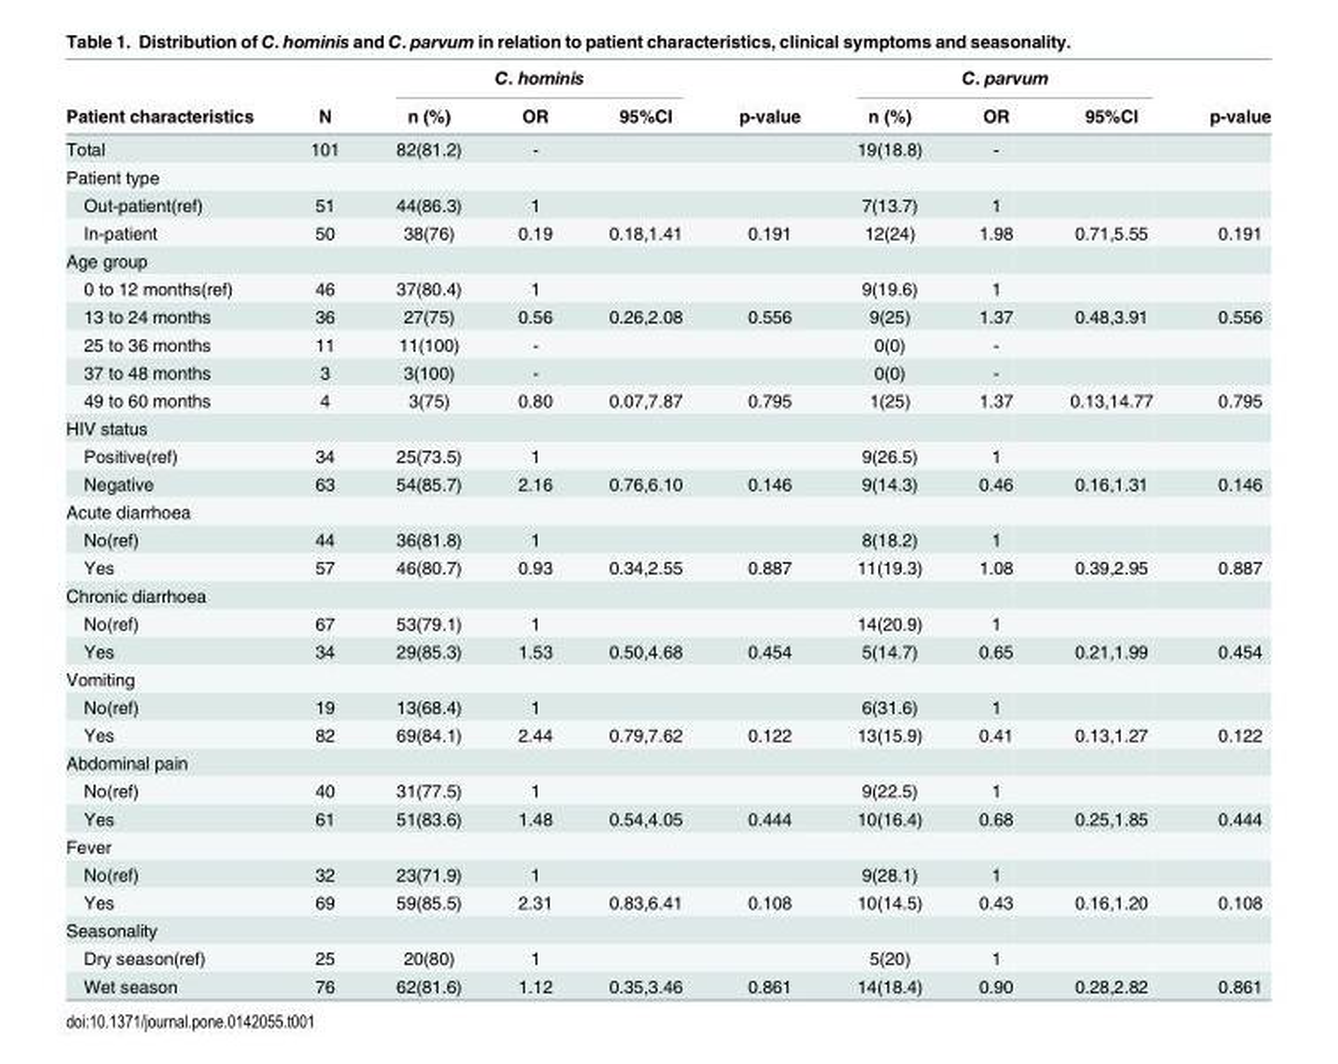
<table><thead><tr><td rowspan="2">Patient characteristics</td><td rowspan="2">N</td><td colspan="3">C. hominis</td><td rowspan="2">p-value</td><td colspan="3">C. parvum</td><td rowspan="2">p-value</td></tr><tr><td>n (%)</td><td>OR</td><td>95%CI</td><td>n (%)</td><td>OR</td><td>95%CI</td></tr></thead><tbody><tr><td>Total</td><td>101</td><td>82(81.2)</td><td>-</td><td></td><td></td><td>19(18.8)</td><td>-</td><td></td><td></td></tr><tr><td colspan="10">Patient type</td></tr><tr><td>Out-patient(ref)</td><td>51</td><td>44(86.3)</td><td>1</td><td></td><td></td><td>7(13.7)</td><td>1</td><td></td><td></td></tr><tr><td>In-patient</td><td>50</td><td>38(76)</td><td>0.19</td><td>0.18,1.41</td><td>0.191</td><td>12(24)</td><td>1.98</td><td>0.71,5.55</td><td>0.191</td></tr><tr><td colspan="10">Age group</td></tr><tr><td>0 to 12 months(ref)</td><td>46</td><td>37(80.4)</td><td>1</td><td></td><td></td><td>9(19.6)</td><td>1</td><td></td><td></td></tr><tr><td>13 to 24 months</td><td>36</td><td>27(75)</td><td>0.56</td><td>0.26,2.08</td><td>0.556</td><td>9(25)</td><td>1.37</td><td>0.48,3.91</td><td>0.556</td></tr><tr><td>25 to 36 months</td><td>11</td><td>11(100)</td><td>-</td><td></td><td></td><td>0(0)</td><td>-</td><td></td><td></td></tr><tr><td>37 to 48 months</td><td>3</td><td>3(100)</td><td>-</td><td></td><td></td><td>0(0)</td><td>-</td><td></td><td></td></tr><tr><td>49 to 60 months</td><td>4</td><td>3(75)</td><td>0.80</td><td>0.07,7.87</td><td>0.795</td><td>1(25)</td><td>1.37</td><td>0.13,14.77</td><td>0.795</td></tr><tr><td colspan="10">HIV status</td></tr><tr><td>Positive(ref)</td><td>34</td><td>25(73.5)</td><td>1</td><td></td><td></td><td>9(26.5)</td><td>1</td><td></td><td></td></tr><tr><td>Negative</td><td>63</td><td>54(85.7)</td><td>2.16</td><td>0.76,6.10</td><td>0.146</td><td>9(14.3)</td><td>0.46</td><td>0.16,1.31</td><td>0.146</td></tr><tr><td colspan="10">Acute diarrhoea</td></tr><tr><td>No(ref)</td><td>44</td><td>36(81.8)</td><td>1</td><td></td><td></td><td>8(18.2)</td><td>1</td><td></td><td></td></tr><tr><td>Yes</td><td>57</td><td>46(80.7)</td><td>0.93</td><td>0.34,2.55</td><td>0.887</td><td>11(19.3)</td><td>1.08</td><td>0.39,2.95</td><td>0.887</td></tr><tr><td colspan="10">Chronic diarrhoea</td></tr><tr><td>No(ref)</td><td>67</td><td>53(79.1)</td><td>1</td><td></td><td></td><td>14(20.9)</td><td>1</td><td></td><td></td></tr><tr><td>Yes</td><td>34</td><td>29(85.3)</td><td>1.53</td><td>0.50,4.68</td><td>0.454</td><td>5(14.7)</td><td>0.65</td><td>0.21,1.99</td><td>0.454</td></tr><tr><td colspan="10">Vomiting</td></tr><tr><td>No(ref)</td><td>19</td><td>13(68.4)</td><td>1</td><td></td><td></td><td>6(31.6)</td><td>1</td><td></td><td></td></tr><tr><td>Yes</td><td>82</td><td>69(84.1)</td><td>2.44</td><td>0.79,7.62</td><td>0.122</td><td>13(15.9)</td><td>0.41</td><td>0.13,1.27</td><td>0.122</td></tr><tr><td colspan="10">Abdominal pain</td></tr><tr><td>No(ref)</td><td>40</td><td>31(77.5)</td><td>1</td><td></td><td></td><td>9(22.5)</td><td>1</td><td></td><td></td></tr><tr><td>Yes</td><td>61</td><td>51(83.6)</td><td>1.48</td><td>0.54,4.05</td><td>0.444</td><td>10(16.4)</td><td>0.68</td><td>0.25,1.85</td><td>0.444</td></tr><tr><td colspan="10">Fever</td></tr><tr><td>No(ref)</td><td>32</td><td>23(71.9)</td><td>1</td><td></td><td></td><td>9(28.1)</td><td>1</td><td></td><td></td></tr><tr><td>Yes</td><td>69</td><td>59(85.5)</td><td>2.31</td><td>0.83,6.41</td><td>0.108</td><td>10(14.5)</td><td>0.43</td><td>0.16,1.20</td><td>0.108</td></tr><tr><td colspan="10">Seasonality</td></tr><tr><td>Dry season(ref)</td><td>25</td><td>20(80)</td><td>1</td><td></td><td></td><td>5(20)</td><td>1</td><td></td><td></td></tr><tr><td>Wet season</td><td>76</td><td>62(81.6)</td><td>1.12</td><td>0.35,3.46</td><td>0.861</td><td>14(18.4)</td><td>0.90</td><td>0.28,2.82</td><td>0.861</td></tr></tbody></table>